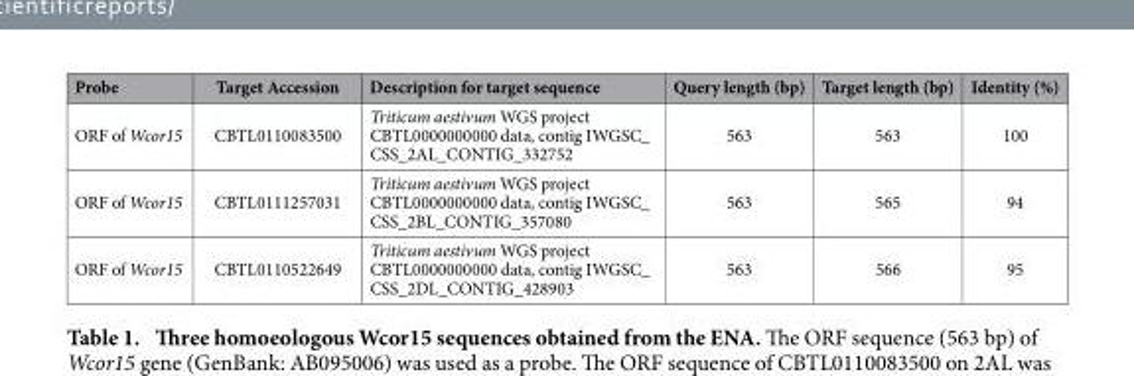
<table><thead><tr><td>Probe</td><td>Target Accession</td><td>Description for target sequence</td><td>Query length (bp)</td><td>Target length (bp)</td><td>Identity (%)</td></tr></thead><tbody><tr><td>ORF of Wcor15</td><td>CBTL0110083500</td><td>Triticum aestivum WGS project CBTL0000000000 data, contig IWGSC_ CSS_2AL_CONTIG_332752</td><td>563</td><td>563</td><td>100</td></tr><tr><td>ORF of Wcor15</td><td>CBTL0111257031</td><td>Triticum aestivum WGS project CBTL0000000000 data, contig IWGSC_ CSS_2BL_CONTIG_357080</td><td>563</td><td>565</td><td>94</td></tr><tr><td>ORF of Wcor15</td><td>CBTL0110522649</td><td>Triticum aestivum WGS project CBTL0000000000 data, contig IWGSC_ CSS_2DL_CONTIG_428903</td><td>563</td><td>566</td><td>95</td></tr></tbody></table>